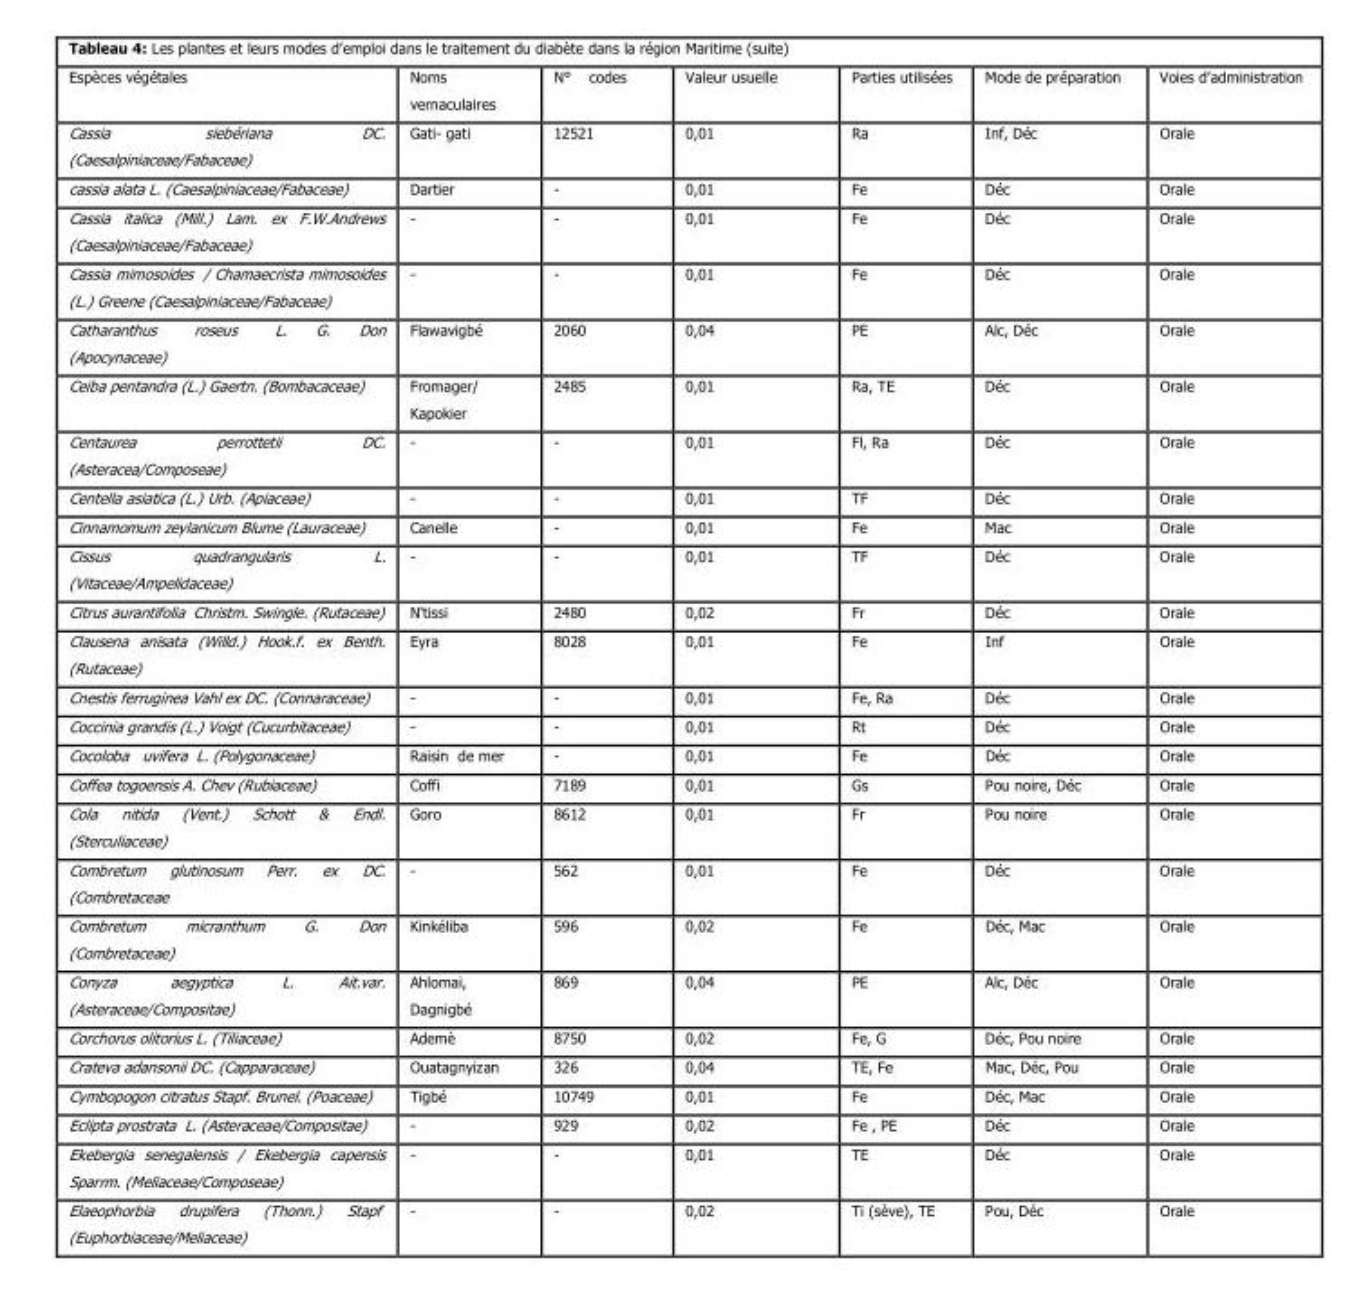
<table><thead><tr><td>Espèces végétales</td><td>Noms vernaculaires</td><td>N° codes</td><td>Valeur usuelle</td><td>Parties utilisées</td><td>Mode de préparation</td><td>Voies d’administration</td></tr></thead><tbody><tr><td>Cassia siebériana DC. (Caesalpiniaceae/Fabaceae)</td><td>Gati- gati</td><td>12521</td><td>0,01</td><td>Ra</td><td>Inf, Déc</td><td>Orale</td></tr><tr><td>cassia alata L. (Caesalpiniaceae/Fabaceae)</td><td>Dartier</td><td>-</td><td>0,01</td><td>Fe</td><td>Déc</td><td>Orale</td></tr><tr><td>Cassia italica (Mill.) Lam. ex F.W.Andrews (Caesalpiniaceae/Fabaceae)</td><td>-</td><td>-</td><td>0,01</td><td>Fe</td><td>Déc</td><td>Orale</td></tr><tr><td>Cassia mimosoides / Chamaecrista mimosoides (L.) Greene (Caesalpiniaceae/Fabaceae)</td><td>-</td><td>-</td><td>0,01</td><td>Fe</td><td>Déc</td><td>Orale</td></tr><tr><td>Catharanthus roseus L. G. Don (Apocynaceae)</td><td>Flawavigbé</td><td>2060</td><td>0,04</td><td>PE</td><td>Alc, Déc</td><td>Orale</td></tr><tr><td>Ceiba pentandra (L.) Gaertn. (Bombacaceae)</td><td>Fromager/ Kapokier</td><td>2485</td><td>0,01</td><td>Ra, TE</td><td>Déc</td><td>Orale</td></tr><tr><td>Centaurea perrottetii DC. (Asteracea/Composeae)</td><td>-</td><td>-</td><td>0,01</td><td>Fl, Ra</td><td>Déc</td><td>Orale</td></tr><tr><td>Centella asiatica (L.) Urb. (Apiaceae)</td><td>-</td><td>-</td><td>0,01</td><td>TF</td><td>Déc</td><td>Orale</td></tr><tr><td>Cinnamomum zeylanicum Blume (Lauraceae)</td><td>Canelle</td><td>-</td><td>0,01</td><td>Fe</td><td>Mac</td><td>Orale</td></tr><tr><td>Cissus quadrangularis L. (Vitaceae/Ampelidaceae)</td><td>-</td><td>-</td><td>0,01</td><td>TF</td><td>Déc</td><td>Orale</td></tr><tr><td>Citrus aurantifolia Christm. Swingle. (Rutaceae)</td><td>N&#x27;tissi</td><td>2480</td><td>0,02</td><td>Fr</td><td>Déc</td><td>Orale</td></tr><tr><td>Clausena anisata (Willd.) Hook.f. ex Benth. (Rutaceae)</td><td>Eyra</td><td>8028</td><td>0,01</td><td>Fe</td><td>Inf</td><td>Orale</td></tr><tr><td>Cnestis ferruginea Vahl ex DC. (Connaraceae)</td><td>-</td><td>-</td><td>0,01</td><td>Fe, Ra</td><td>Déc</td><td>Orale</td></tr><tr><td>Coccinia grandis (L.) Voigt (Cucurbitaceae)</td><td>-</td><td>-</td><td>0,01</td><td>Rt</td><td>Déc</td><td>Orale</td></tr><tr><td>Cocoloba uvifera L. (Polygonaceae)</td><td>Raisin de mer</td><td>-</td><td>0,01</td><td>Fe</td><td>Déc</td><td>Orale</td></tr><tr><td>Coffea togoensis A. Chev (Rubiaceae)</td><td>Coffi</td><td>7189</td><td>0,01</td><td>Gs</td><td>Pou noire, Déc</td><td>Orale</td></tr><tr><td>Cola nitida (Vent.) Schott &amp; Endl. (Sterculiaceae)</td><td>Goro</td><td>8612</td><td>0,01</td><td>Fr</td><td>Pou noire</td><td>Orale</td></tr><tr><td>Combretum glutinosum Perr. ex DC. (Combretaceae</td><td>-</td><td>562</td><td>0,01</td><td>Fe</td><td>Déc</td><td>Orale</td></tr><tr><td>Combretum micranthum G. Don (Combretaceae)</td><td>Kinkéliba</td><td>596</td><td>0,02</td><td>Fe</td><td>Déc, Mac</td><td>Orale</td></tr><tr><td>Conyza aegyptica L. Ait.var. (Asteraceae/Compositae)</td><td>Ahlomai, Dagnigbé</td><td>869</td><td>0,04</td><td>PE</td><td>Alc, Déc</td><td>Orale</td></tr><tr><td>Corchorus olitorius L. (Tiliaceae)</td><td>Ademè</td><td>8750</td><td>0,02</td><td>Fe, G</td><td>Déc, Pou noire</td><td>Orale</td></tr><tr><td>Crateva adansonii DC. (Capparaceae)</td><td>Ouatagnyizan</td><td>326</td><td>0,04</td><td>TE, Fe</td><td>Mac, Déc, Pou</td><td>Orale</td></tr><tr><td>Cymbopogon citratus Stapf. Brunel. (Poaceae)</td><td>Tigbé</td><td>10749</td><td>0,01</td><td>Fe</td><td>Déc, Mac</td><td>Orale</td></tr><tr><td>Eclipta prostrata L. (Asteraceae/Compositae)</td><td>-</td><td>929</td><td>0,02</td><td>Fe , PE</td><td>Déc</td><td>Orale</td></tr><tr><td>Ekebergia senegalensis / Ekebergia capensis Sparrm. (Meliaceae/Composeae)</td><td>-</td><td>-</td><td>0,01</td><td>TE</td><td>Déc</td><td>Orale</td></tr><tr><td>Elaeophorbia drupifera (Thonn.) Stapf (Euphorbiaceae/Meliaceae)</td><td>-</td><td>-</td><td>0,02</td><td>Ti (sève), TE</td><td>Pou, Déc</td><td>Orale</td></tr></tbody></table>